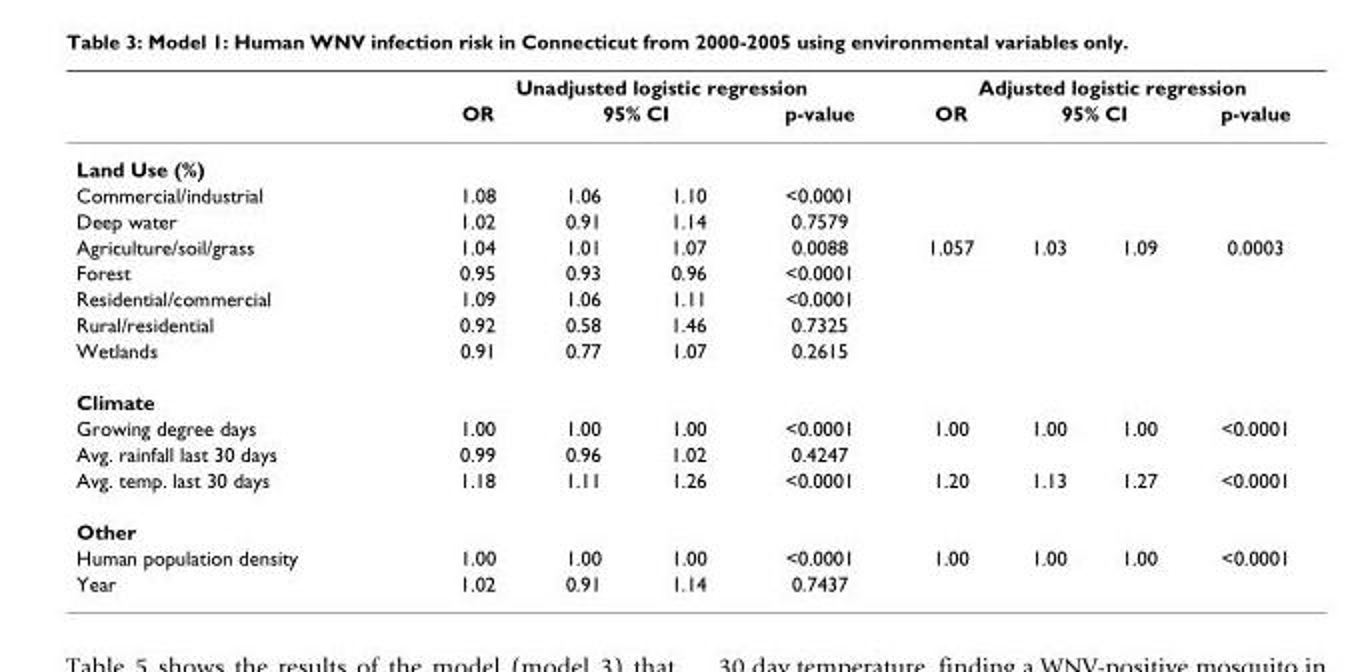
<table><thead><tr><td rowspan="3">Land Use (%)</td><td colspan="4">Unadjusted logistic regression</td><td colspan="4">Adjusted logistic regression</td></tr><tr><td rowspan="2">OR</td><td colspan="2">95% CI</td><td rowspan="2">p-value</td><td rowspan="2">OR</td><td colspan="2">95% CI</td><td rowspan="2">p-value</td></tr><tr><td></td><td></td><td></td><td></td></tr></thead><tbody><tr><td>Commercial/industrial</td><td>1.08</td><td>1.06</td><td>1.10</td><td>&lt;0.0001</td><td></td><td></td><td></td><td></td></tr><tr><td>Deep water</td><td>1.02</td><td>0.91</td><td>1.14</td><td>0.7579</td><td></td><td></td><td></td><td></td></tr><tr><td>Agriculture/soil/grass</td><td>1.04</td><td>1.01</td><td>1.07</td><td>0.0088</td><td>1.057</td><td>1.03</td><td>1.09</td><td>0.0003</td></tr><tr><td>Forest</td><td>0.95</td><td>0.93</td><td>0.96</td><td>&lt;0.0001</td><td></td><td></td><td></td><td></td></tr><tr><td>Residential/commercial</td><td>1.09</td><td>1.06</td><td>1.11</td><td>&lt;0.0001</td><td></td><td></td><td></td><td></td></tr><tr><td>Rural/residential</td><td>0.92</td><td>0.58</td><td>1.46</td><td>0.7325</td><td></td><td></td><td></td><td></td></tr><tr><td>Wetlands</td><td>0.91</td><td>0.77</td><td>1.07</td><td>0.2615</td><td></td><td></td><td></td><td></td></tr><tr><td colspan="9">Climate</td></tr><tr><td>Growing degree days</td><td>1.00</td><td>1.00</td><td>1.00</td><td>&lt;0.0001</td><td>1.00</td><td>1.00</td><td>1.00</td><td>&lt;0.0001</td></tr><tr><td>Avg. rainfall last 30 days</td><td>0.99</td><td>0.96</td><td>1.02</td><td>0.4247</td><td></td><td></td><td></td><td></td></tr><tr><td>Avg. temp. last 30 days</td><td>1.18</td><td>1.11</td><td>1.26</td><td>&lt;0.0001</td><td>1.20</td><td>1.13</td><td>1.27</td><td>&lt;0.0001</td></tr><tr><td colspan="9">Other</td></tr><tr><td>Human population density</td><td>1.00</td><td>1.00</td><td>1.00</td><td>&lt;0.0001</td><td>1.00</td><td>1.00</td><td>1.00</td><td>&lt;0.0001</td></tr><tr><td>Year</td><td>1.02</td><td>0.91</td><td>1.14</td><td>0.7437</td><td></td><td></td><td></td><td></td></tr></tbody></table>